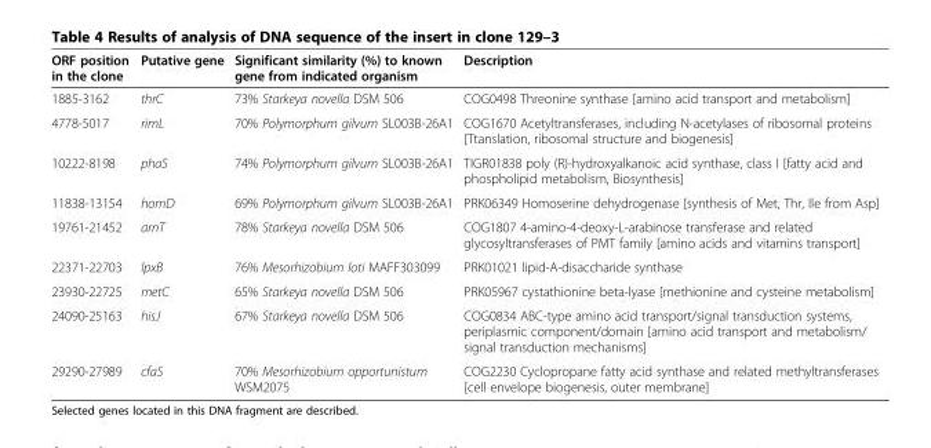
<table><thead><tr><td>ORF position in the clone</td><td>Putative gene</td><td>Significant similarity (%) to known gene from indicated organism</td><td>Description</td></tr></thead><tbody><tr><td>1885-3162</td><td>thrC</td><td>73% Starkeya novella DSM 506</td><td>COG0498 Threonine synthase [amino acid transport and metabolism]</td></tr><tr><td>4778-5017</td><td>rimL</td><td>70% Polymorphum gilvum SL003B-26A1</td><td>COG1670 Acetyltransferases, including N-acetylases of ribosomal proteins [Ttanslation, ribosomal structure and biogenesis]</td></tr><tr><td>10222-8198</td><td>phaS</td><td>74% Polymorphum gilvum SL003B-26A1</td><td>TIGR01838 poly (R)-hydroxyalkanoic acid synthase, class I [fatty acid and phospholipid metabolism, Biosynthesis]</td></tr><tr><td>11838-13154</td><td>homD</td><td>69% Polymorphum gilvum SL003B-26A1</td><td>PRK06349 Homoserine dehydrogenase [synthesis of Met, Thr, Ile from Asp]</td></tr><tr><td>19761-21452</td><td>arnT</td><td>78% Starkeya novella DSM 506</td><td>COG1807 4-amino-4-deoxy-L-arabinose transferase and related glycosyltransferases of PMT family [amino acids and vitamins transport]</td></tr><tr><td>22371-22703</td><td>lpxB</td><td>76% Mesorhizobium loti MAFF303099</td><td>PRK01021 lipid-A-disaccharide synthase</td></tr><tr><td>23930-22725</td><td>metC</td><td>65% Starkeya novella DSM 506</td><td>PRK05967 cystathionine beta-lyase [methionine and cysteine metabolism]</td></tr><tr><td>24090-25163</td><td>hisJ</td><td>67% Starkeya novella DSM 506</td><td>COG0834 ABC-type amino acid transport/signal transduction systems, periplasmic component/domain [amino acid transport and metabolism/ signal transduction mechanisms]</td></tr><tr><td>29290-27989</td><td>cfaS</td><td>70% Mesorhizobium opportunistum WSM2075</td><td>COG2230 Cyclopropane fatty acid synthase and related methyltransferases [cell envelope biogenesis, outer membrane]</td></tr></tbody></table>